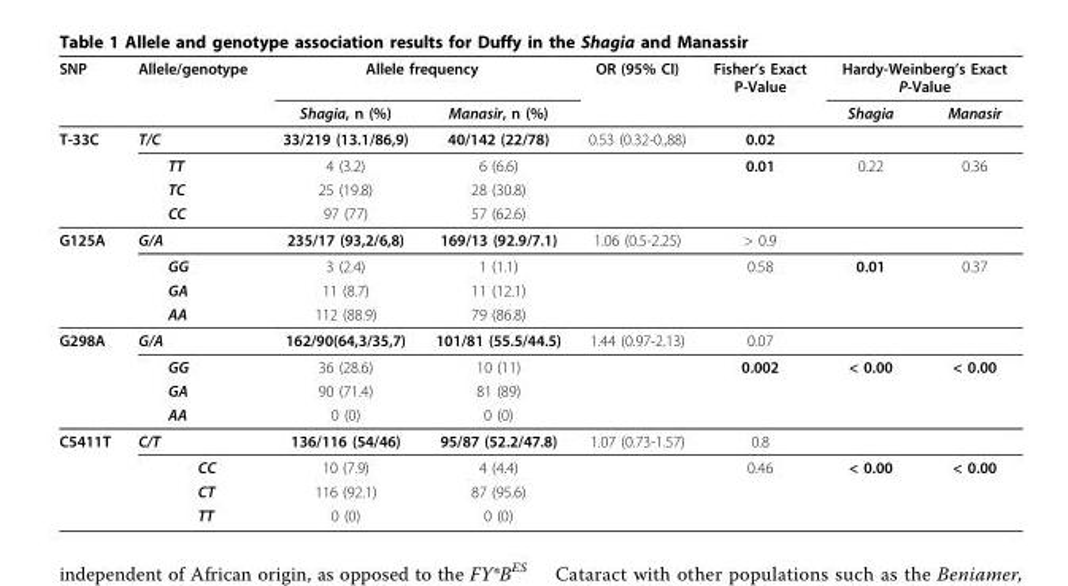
<table><thead><tr><td rowspan="2">SNP</td><td rowspan="2">Allele/genotype</td><td colspan="2">Allele frequency</td><td rowspan="2">OR (95% CI)</td><td rowspan="2">Fisher’s Exact P-Value</td><td colspan="2">Hardy-Weinberg’s Exact P-Value</td></tr><tr><td>Shagia, n (%)</td><td>Manasir, n (%)</td><td>Shagia</td><td>Manasir</td></tr></thead><tbody><tr><td rowspan="4">T-33C</td><td>T/C</td><td>33/219 (13.1/86,9)</td><td>40/142 (22/78)</td><td>0.53 (0.32-0.,88)</td><td>0.02</td><td></td><td></td></tr><tr><td>TT</td><td>4 (3.2)</td><td>6 (6.6)</td><td></td><td>0.01</td><td>0.22</td><td>0.36</td></tr><tr><td>TC</td><td>25 (19.8)</td><td>28 (30.8)</td><td></td><td></td><td></td><td></td></tr><tr><td>CC</td><td>97 (77)</td><td>57 (62.6)</td><td></td><td></td><td></td><td></td></tr><tr><td rowspan="4">G125A</td><td>G/A</td><td>235/17 (93,2/6,8)</td><td>169/13 (92.9/7.1)</td><td>1.06 (0.5-2.25)</td><td>&gt; 0.9</td><td></td><td></td></tr><tr><td>GG</td><td>3 (2.4)</td><td>1 (1.1)</td><td></td><td>0.58</td><td>0.01</td><td>0.37</td></tr><tr><td>GA</td><td>11 (8.7)</td><td>11 (12.1)</td><td></td><td></td><td></td><td></td></tr><tr><td>AA</td><td>112 (88.9)</td><td>79 (86.8)</td><td></td><td></td><td></td><td></td></tr><tr><td rowspan="4">G298A</td><td>G/A</td><td>162/90(64,3/35,7)</td><td>101/81 (55.5/44.5)</td><td>1.44 (0.97-2.13)</td><td>0.07</td><td></td><td></td></tr><tr><td>GG</td><td>36 (28.6)</td><td>10 (11)</td><td></td><td>0.002</td><td>&lt; 0.00</td><td>&lt; 0.00</td></tr><tr><td>GA</td><td>90 (71.4)</td><td>81 (89)</td><td></td><td></td><td></td><td></td></tr><tr><td>AA</td><td>0 (0)</td><td>0 (0)</td><td></td><td></td><td></td><td></td></tr><tr><td rowspan="4">C5411T</td><td>C/T</td><td>136/116 (54/46)</td><td>95/87 (52.2/47.8)</td><td>1.07 (0.73-1.57)</td><td>0.8</td><td></td><td></td></tr><tr><td>CC</td><td>10 (7.9)</td><td>4 (4.4)</td><td></td><td>0.46</td><td>&lt; 0.00</td><td>&lt; 0.00</td></tr><tr><td>CT</td><td>116 (92.1)</td><td>87 (95.6)</td><td></td><td></td><td></td><td></td></tr><tr><td>TT</td><td>0 (0)</td><td>0 (0)</td><td></td><td></td><td></td><td></td></tr></tbody></table>